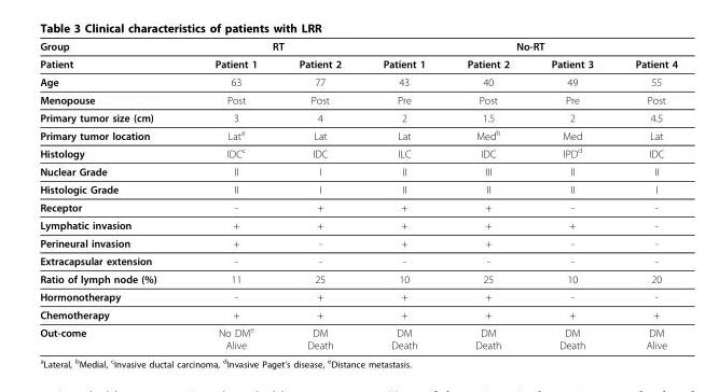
<table><thead><tr><td rowspan="2">Group Patient</td><td colspan="2">RT</td><td colspan="4">No-RT</td></tr><tr><td>Patient 1</td><td>Patient 2</td><td>Patient 1</td><td>Patient 2</td><td>Patient 3</td><td>Patient 4</td></tr></thead><tbody><tr><td>Age</td><td>63</td><td>77</td><td>43</td><td>40</td><td>49</td><td>55</td></tr><tr><td>Menopouse</td><td>Post</td><td>Post</td><td>Pre</td><td>Post</td><td>Pre</td><td>Post</td></tr><tr><td>Primary tumor size (cm)</td><td>3</td><td>4</td><td>2</td><td>1.5</td><td>2</td><td>4.5</td></tr><tr><td>Primary tumor location</td><td>Lat<sup>a</sup></td><td>Lat</td><td>Lat</td><td>Med<sup>b</sup></td><td>Med</td><td>Lat</td></tr><tr><td>Histology</td><td>IDC<sup>c</sup></td><td>IDC</td><td>ILC</td><td>IDC</td><td>IPD<sup>d</sup></td><td>IDC</td></tr><tr><td>Nuclear Grade</td><td>II</td><td>I</td><td>II</td><td>III</td><td>II</td><td>II</td></tr><tr><td>Histologic Grade</td><td>II</td><td>I</td><td>II</td><td>II</td><td>II</td><td>I</td></tr><tr><td>Receptor</td><td>-</td><td>+</td><td>+</td><td>+</td><td>-</td><td>-</td></tr><tr><td>Lymphatic invasion</td><td>+</td><td>+</td><td>+</td><td>+</td><td>+</td><td>-</td></tr><tr><td>Perineural invasion</td><td>+</td><td>-</td><td>+</td><td>+</td><td>-</td><td>-</td></tr><tr><td>Extracapsular extension</td><td>-</td><td>-</td><td>-</td><td>-</td><td>-</td><td>-</td></tr><tr><td>Ratio of lymph node (%)</td><td>11</td><td>25</td><td>10</td><td>25</td><td>10</td><td>20</td></tr><tr><td>Hormonotherapy</td><td>-</td><td>+</td><td>+</td><td>+</td><td>-</td><td>-</td></tr><tr><td>Chemotherapy</td><td>+</td><td>+</td><td>+</td><td>+</td><td>+</td><td>+</td></tr><tr><td>Out-come</td><td>No DM<sup>e</sup> Alive</td><td>DM Death</td><td>DM Death</td><td>DM Death</td><td>DM Death</td><td>DM Alive</td></tr></tbody></table>